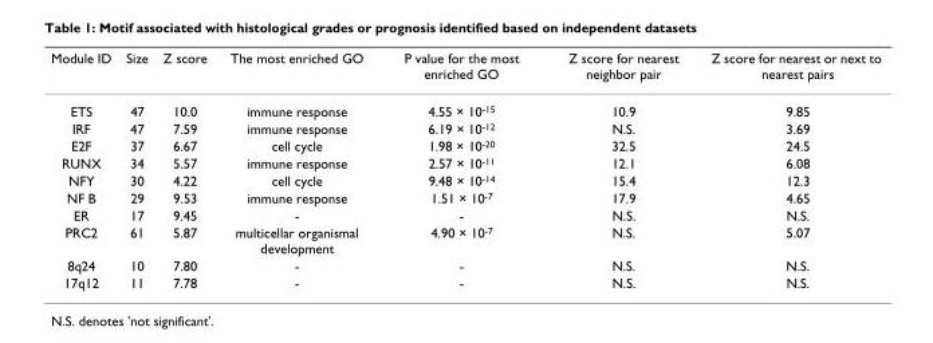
<table><thead><tr><td>Module ID</td><td>Size</td><td>Z score</td><td>The most enriched GO</td><td>P value for the most enriched GO</td><td>Z score for nearest neighbor pair</td><td>Z score for nearest or next to nearest pairs</td></tr></thead><tbody><tr><td>ETS</td><td>47</td><td>10.0</td><td>immune response</td><td>4.55 × 10<sup>-15</sup></td><td>10.9</td><td>9.85</td></tr><tr><td>IRF</td><td>47</td><td>7.59</td><td>immune response</td><td>6.19 × 10<sup>-12</sup></td><td>N.S.</td><td>3.69</td></tr><tr><td>E2F</td><td>37</td><td>6.67</td><td>cell cycle</td><td>1.98 × 10<sup>-20</sup></td><td>32.5</td><td>24.5</td></tr><tr><td>RUNX</td><td>34</td><td>5.57</td><td>immune response</td><td>2.57 × 10<sup>-11</sup></td><td>12.1</td><td>6.08</td></tr><tr><td>NFY</td><td>30</td><td>4.22</td><td>cell cycle</td><td>9.48 × 10<sup>-14</sup></td><td>15.4</td><td>12.3</td></tr><tr><td>NF B</td><td>29</td><td>9.53</td><td>immune response</td><td>1.51 × 10<sup>-7</sup></td><td>17.9</td><td>4.65</td></tr><tr><td>ER</td><td>17</td><td>9.45</td><td>-</td><td>-</td><td>N.S.</td><td>N.S.</td></tr><tr><td>PRC2</td><td>61</td><td>5.87</td><td>multicellar organismal development</td><td>4.90 × 10<sup>-7</sup></td><td>N.S.</td><td>5.07</td></tr><tr><td>8q24</td><td>10</td><td>7.80</td><td>-</td><td>-</td><td>N.S.</td><td>N.S.</td></tr><tr><td>17q12</td><td>11</td><td>7.78</td><td>-</td><td>-</td><td>N.S.</td><td>N.S.</td></tr></tbody></table>